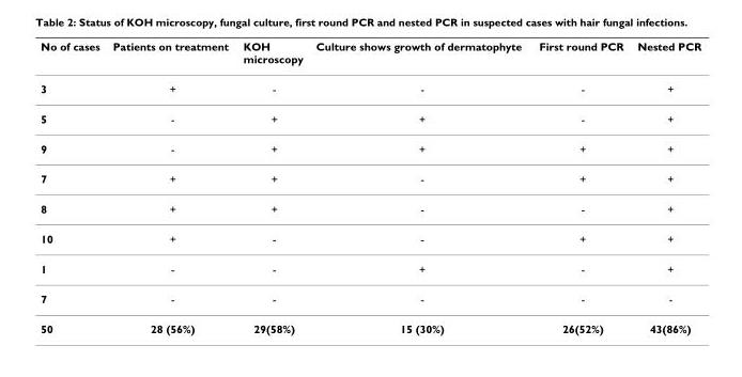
<table><thead><tr><td>No of cases</td><td>Patients on treatment</td><td>KOH microscopy</td><td>Culture shows growth of dermatophyte</td><td>First round PCR</td><td>Nested PCR</td></tr></thead><tbody><tr><td>3</td><td>+</td><td>-</td><td>-</td><td>-</td><td>+</td></tr><tr><td>5</td><td>-</td><td>+</td><td>+</td><td>-</td><td>+</td></tr><tr><td>9</td><td>-</td><td>+</td><td>+</td><td>+</td><td>+</td></tr><tr><td>7</td><td>+</td><td>+</td><td>-</td><td>+</td><td>+</td></tr><tr><td>8</td><td>+</td><td>+</td><td>-</td><td>-</td><td>+</td></tr><tr><td>10</td><td>+</td><td>-</td><td>-</td><td>+</td><td>+</td></tr><tr><td>1</td><td>-</td><td>-</td><td>+</td><td>-</td><td>+</td></tr><tr><td>7</td><td>-</td><td>-</td><td>-</td><td>-</td><td>-</td></tr><tr><td>50</td><td>28 (56%)</td><td>29(58%)</td><td>15 (30%)</td><td>26(52%)</td><td>43(86%)</td></tr></tbody></table>